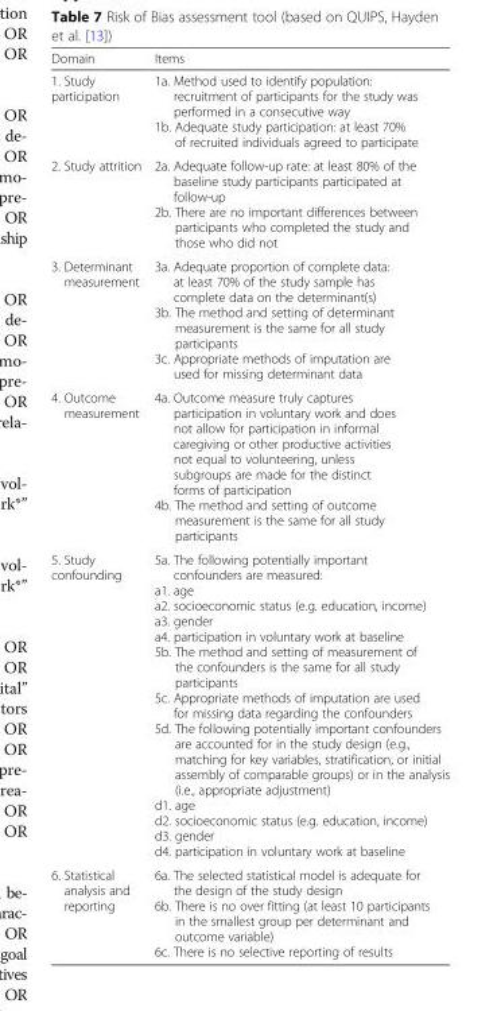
<table><thead><tr><td>Domain</td><td>Items</td></tr></thead><tbody><tr><td>1. Study participation</td><td>1a. Method used to identify population: recruitment of participants for the study was performed in a consecutive way 1b. Adequate study participation: at least 70% of recruited individuals agreed to participate</td></tr><tr><td>2. Study attrition</td><td>2a. Adequate follow-up rate: at least 80% of the baseline study participants participated at follow-up 2b. There are no important differences between participants who completed the study and those who did not</td></tr><tr><td>3. Determinant measurement</td><td>3a. Adequate proportion of complete data: at least 70% of the study sample has complete data on the determinant(s) 3b. The method and setting of determinant measurement is the same for all study participants 3c. Appropriate methods of imputation are used for missing determinant data</td></tr><tr><td>4. Outcome measurement</td><td>4a. Outcome measure truly captures participation in voluntary work and does not allow for participation in informal caregiving or other productive activities not equal to volunteering, unless subgroups are made for the distinct forms of participation 4b. The method and setting of outcome measurement is the same for all study participants</td></tr><tr><td>5. Study confounding</td><td>5a. The following potentially important confounders are measured: a1. age a2. socioeconomic status (e.g. education, income) a3. gender a4. participation in voluntary work at baseline 5b. The method and setting of measurement of the confounders is the same for all study participants 5c. Appropriate methods of imputation are used for missing data regarding the confounders 5d. The following potentially important confounders are accounted for in the study design (e.g., matching for key variables, stratification, or initial assembly of comparable groups) or in the analysis (i.e., appropriate adjustment) d1. age d2. socioeconomic status (e.g. education, income) d3. gender d4. participation in voluntary work at baseline</td></tr><tr><td>6. Statistical analysis and reporting</td><td>6a. The selected statistical model is adequate for the design of the study design 6b. There is no over fitting (at least 10 participants in the smallest group per determinant and outcome variable) 6c. There is no selective reporting of results</td></tr></tbody></table>